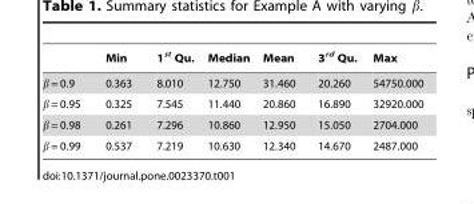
<table><thead><tr><td></td><td>Min</td><td>1<sup>st</sup> Qu.</td><td>Median</td><td>Mean</td><td>3<sup>rd</sup> Qu.</td><td>Max</td></tr></thead><tbody><tr><td>= 0.9</td><td>0.363</td><td>8.010</td><td>12.750</td><td>31.460</td><td>20.260</td><td>54750.000</td></tr><tr><td>= 0.95</td><td>0.325</td><td>7.545</td><td>11.440</td><td>20.860</td><td>16.890</td><td>32920.000</td></tr><tr><td>= 0.98</td><td>0.261</td><td>7.296</td><td>10.860</td><td>12.950</td><td>15.050</td><td>2704.000</td></tr><tr><td>= 0.99</td><td>0.537</td><td>7.219</td><td>10.630</td><td>12.340</td><td>14.670</td><td>2487.000</td></tr></tbody></table>